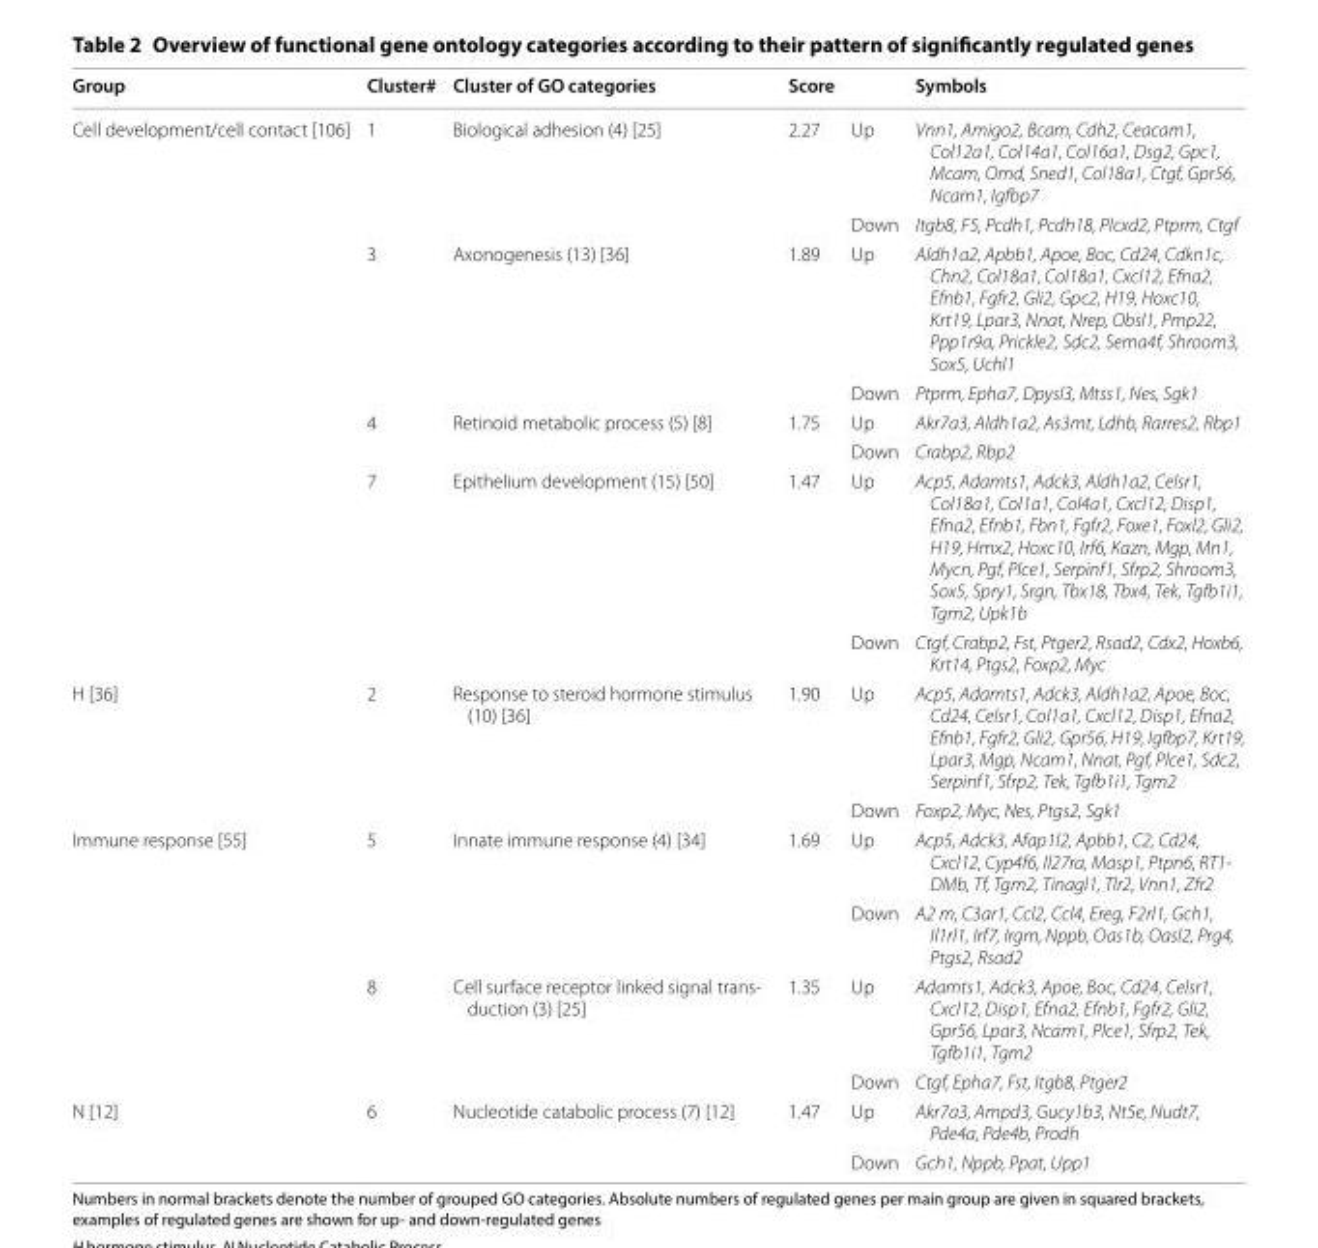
<table><thead><tr><td>Group</td><td>Cluster#</td><td>Cluster of GO categories</td><td>Score</td><td></td><td>Symbols</td></tr></thead><tbody><tr><td rowspan="8">Cell development/cell contact [106]</td><td rowspan="2">1</td><td rowspan="2">Biological adhesion (4) [25]</td><td rowspan="2">2.27</td><td>Up</td><td>Vnn1, Amigo2, Bcam, Cdh2, Ceacam1, Col12a1, Col14a1, Col16a1, Dsg2, Gpc1, Mcam, Omd, Sned1, Col18a1, Ctgf, Gpr56, Ncam1, Igfbp7</td></tr><tr><td>Down</td><td>Itgb8, F5, Pcdh1, Pcdh18, Plcxd2, Ptprm, Ctgf</td></tr><tr><td rowspan="2">3</td><td rowspan="2">Axonogenesis (13) [36]</td><td rowspan="2">1.89</td><td>Up</td><td>Aldh1a2, Apbb1, Apoe, Boc, Cd24, Cdkn1c, Chn2, Col18a1, Col18a1, Cxcl12, Efna2, Efnb1, Fgfr2, Gli2, Gpc2, H19, Hoxc10, Krt19, Lpar3, Nnat, Nrep, Obsl1, Pmp22, Ppp1r9a, Prickle2, Sdc2, Sema4f, Shroom3, Sox5, Uchl1</td></tr><tr><td>Down</td><td>Ptprm, Epha7, Dpysl3, Mtss1, Nes, Sgk1</td></tr><tr><td rowspan="2">4</td><td rowspan="2">Retinoid metabolic process (5) [8]</td><td rowspan="2">1.75</td><td>Up</td><td>Akr7a3, Aldh1a2, As3mt, Ldhb, Rarres2, Rbp1</td></tr><tr><td>Down</td><td>Crabp2, Rbp2</td></tr><tr><td rowspan="2">7</td><td rowspan="2">Epithelium development (15) [50]</td><td rowspan="2">1.47</td><td>Up</td><td>Acp5, Adamts1, Adck3, Aldh1a2, Celsr1, Col18a1, Col1a1, Col4a1, Cxcl12, Disp1, Efna2, Efnb1, Fbn1, Fgfr2, Foxe1, Foxl2, Gli2, H19, Hmx2, Hoxc10, Irf6, Kazn, Mgp, Mn1, Mycn, Pgf, Plce1, Serpinf1, Sfrp2, Shroom3, Sox5, Spry1, Srgn, Tbx18, Tbx4, Tek, Tgfb1i1, Tgm2, Upk1b</td></tr><tr><td>Down</td><td>Ctgf, Crabp2, Fst, Ptger2, Rsad2, Cdx2, Hoxb6, Krt14, Ptgs2, Foxp2, Myc</td></tr><tr><td rowspan="2">H [36]</td><td rowspan="2">2</td><td rowspan="2">Response to steroid hormone stimulus (10) [36]</td><td rowspan="2">1.90</td><td>Up</td><td>Acp5, Adamts1, Adck3, Aldh1a2, Apoe, Boc, Cd24, Celsr1, Col1a1, Cxcl12, Disp1, Efna2, Efnb1, Fgfr2, Gli2, Gpr56, H19, Igfbp7, Krt19, Lpar3, Mgp, Ncam1, Nnat, Pgf, Plce1, Sdc2, Serpinf1, Sfrp2, Tek, Tgfb1i1, Tgm2</td></tr><tr><td>Down</td><td>Foxp2, Myc, Nes, Ptgs2, Sgk1</td></tr><tr><td rowspan="4">Immune response [55]</td><td rowspan="2">5</td><td rowspan="2">Innate immune response (4) [34]</td><td rowspan="2">1.69</td><td>Up</td><td>Acp5, Adck3, Afap1l2, Apbb1, C2, Cd24, Cxcl12, Cyp4f6, Il27ra, Masp1, Ptpn6, RT1- DMb, Tf, Tgm2, Tinagl1, Tlr2, Vnn1, Zfr2</td></tr><tr><td>Down</td><td>A2 m, C3ar1, Ccl2, Ccl4, Ereg, F2rl1, Gch1, Il1rl1, Irf7, Irgm, Nppb, Oas1b, Oasl2, Prg4, Ptgs2, Rsad2</td></tr><tr><td rowspan="2">8</td><td rowspan="2">Cell surface receptor linked signal trans- duction (3) [25]</td><td rowspan="2">1.35</td><td>Up</td><td>Adamts1, Adck3, Apoe, Boc, Cd24, Celsr1, Cxcl12, Disp1, Efna2, Efnb1, Fgfr2, Gli2, Gpr56, Lpar3, Ncam1, Plce1, Sfrp2, Tek, Tgfb1i1, Tgm2</td></tr><tr><td>Down</td><td>Ctgf, Epha7, Fst, Itgb8, Ptger2</td></tr><tr><td rowspan="2">N [12]</td><td rowspan="2">6</td><td rowspan="2">Nucleotide catabolic process (7) [12]</td><td rowspan="2">1.47</td><td>Up</td><td>Akr7a3, Ampd3, Gucy1b3, Nt5e, Nudt7, Pde4a, Pde4b, Prodh</td></tr><tr><td>Down</td><td>Gch1, Nppb, Ppat, Upp1</td></tr></tbody></table>